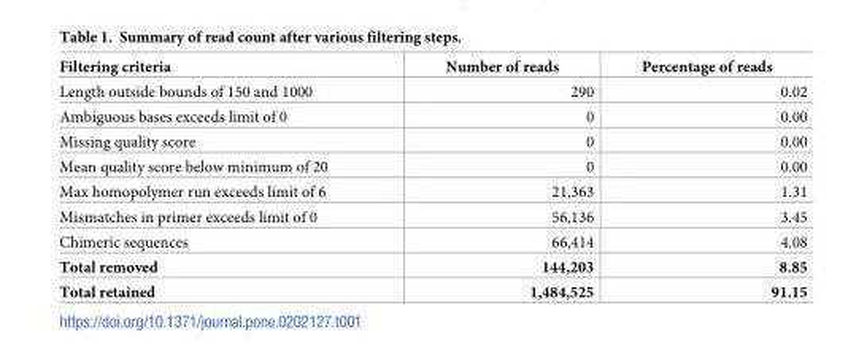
<table><thead><tr><td>Filtering criteria</td><td>Number of reads</td><td>Percentage of reads</td></tr></thead><tbody><tr><td>Length outside bounds of 150 and 1000</td><td>290</td><td>0.02</td></tr><tr><td>Ambiguous bases exceeds limit of 0</td><td>0</td><td>0.00</td></tr><tr><td>Missing quality score</td><td>0</td><td>0.00</td></tr><tr><td>Mean quality score below minimum of 20</td><td>0</td><td>0.00</td></tr><tr><td>Max homopolymer run exceeds limit of 6</td><td>21,363</td><td>1.31</td></tr><tr><td>Mismatches in primer exceeds limit of 0</td><td>56,136</td><td>3.45</td></tr><tr><td>Chimeric sequences</td><td>66,414</td><td>4.08</td></tr><tr><td>Total removed</td><td>144,203</td><td>8.85</td></tr><tr><td>Total retained</td><td>1,484,525</td><td>91.15</td></tr></tbody></table>